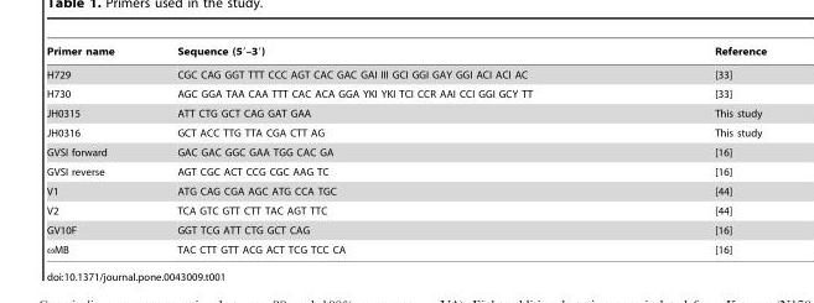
<table><thead><tr><td>Primer name</td><td>Sequence (5′–3′)</td><td>Reference</td></tr></thead><tbody><tr><td>H729</td><td>CGC CAG GGT TTT CCC AGT CAC GAC GAI III GCI GGI GAY GGI ACI ACI AC</td><td>[33]</td></tr><tr><td>H730</td><td>AGC GGA TAA CAA TTT CAC ACA GGA YKI YKI TCI CCR AAI CCI GGI GCY TT</td><td>[33]</td></tr><tr><td>JH0315</td><td>ATT CTG GCT CAG GAT GAA</td><td>This study</td></tr><tr><td>JH0316</td><td>GCT ACC TTG TTA CGA CTT AG</td><td>This study</td></tr><tr><td>GVSI forward</td><td>GAC GAC GGC GAA TGG CAC GA</td><td>[16]</td></tr><tr><td>GVSI reverse</td><td>AGT CGC ACT CCG CGC AAG TC</td><td>[16]</td></tr><tr><td>V1</td><td>ATG CAG CGA AGC ATG CCA TGC</td><td>[44]</td></tr><tr><td>V2</td><td>TCA GTC GTT CTT TAC AGT TTC</td><td>[44]</td></tr><tr><td>GV10F</td><td>GGT TCG ATT CTG GCT CAG</td><td>[16]</td></tr><tr><td>ωMB</td><td>TAC CTT GTT ACG ACT TCG TCC CA</td><td>[16]</td></tr></tbody></table>